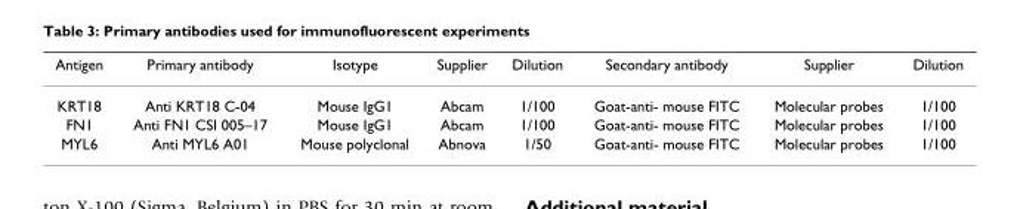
<table><thead><tr><td>Antigen</td><td>Primary antibody</td><td>Isotype</td><td>Supplier</td><td>Dilution</td><td>Secondary antibody</td><td>Supplier</td><td>Dilution</td></tr></thead><tbody><tr><td>KRT18</td><td>Anti KRT18 C-04</td><td>Mouse IgG1</td><td>Abcam</td><td>1/100</td><td>Goat-anti- mouse FITC</td><td>Molecular probes</td><td>1/100</td></tr><tr><td>FN1</td><td>Anti FN1 CSI 005–17</td><td>Mouse IgG1</td><td>Abcam</td><td>1/100</td><td>Goat-anti- mouse FITC</td><td>Molecular probes</td><td>1/100</td></tr><tr><td>MYL6</td><td>Anti MYL6 A01</td><td>Mouse polyclonal</td><td>Abnova</td><td>1/50</td><td>Goat-anti- mouse FITC</td><td>Molecular probes</td><td>1/100</td></tr></tbody></table>